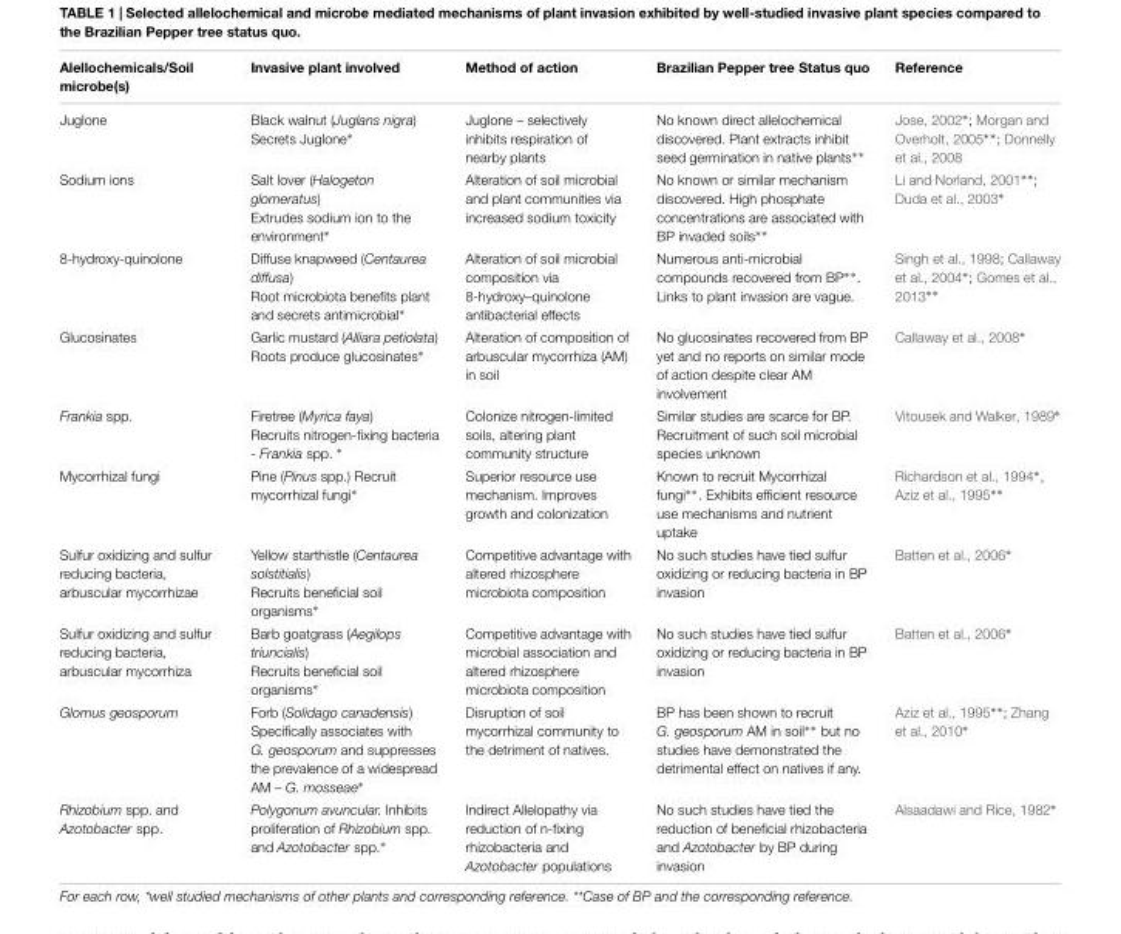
<table><thead><tr><td>Alellochemicals/Soil microbe(s)</td><td>Invasive plant involved</td><td>Method of action</td><td>Brazilian Pepper tree Status quo</td><td>Reference</td></tr></thead><tbody><tr><td>Juglone</td><td>Black walnut (Juglans nigra) Secrets Juglone∗</td><td>Juglone – selectively inhibits respiration of nearby plants</td><td>No known direct allelochemical discovered. Plant extracts inhibit seed germination in native plants∗∗</td><td>Jose, 2002∗; Morgan and Overholt, 2005∗∗; Donnelly et al., 2008</td></tr><tr><td>Sodium ions</td><td>Salt lover (Halogeton glomeratus) Extrudes sodium ion to the environment∗</td><td>Alteration of soil microbial and plant communities via increased sodium toxicity</td><td>No known or similar mechanism discovered. High phosphate concentrations are associated with BP invaded soils∗∗</td><td>Li and Norland, 2001∗∗; Duda et al., 2003∗</td></tr><tr><td>8-hydroxy-quinolone</td><td>Diffuse knapweed (Centaurea diffusa) Root microbiota benefits plant and secrets antimicrobial∗</td><td>Alteration of soil microbial composition via 8-hydroxy–quinolone antibacterial effects</td><td>Numerous anti-microbial compounds recovered from BP∗∗. Links to plant invasion are vague.</td><td>Singh et al., 1998; Callaway et al., 2004∗; Gomes et al., 2013∗∗</td></tr><tr><td>Glucosinates</td><td>Garlic mustard (Alliara petiolata) Roots produce glucosinates∗</td><td>Alteration of composition of arbuscular mycorrhiza (AM) in soil</td><td>No glucosinates recovered from BP yet and no reports on similar mode of action despite clear AM involvement</td><td>Callaway et al., 2008∗</td></tr><tr><td>Frankia spp.</td><td>Firetree (Myrica faya) Recruits nitrogen-fixing bacteria - Frankia spp. ∗</td><td>Colonize nitrogen-limited soils, altering plant community structure</td><td>Similar studies are scarce for BP. Recruitment of such soil microbial species unknown</td><td>Vitousek and Walker, 1989∗</td></tr><tr><td>Mycorrhizal fungi</td><td>Pine (Pinus spp.) Recruit mycorrhizal fungi∗</td><td>Superior resource use mechanism. Improves growth and colonization</td><td>Known to recruit Mycorrhizal fungi∗∗. Exhibits efficient resource use mechanisms and nutrient uptake</td><td>Richardson et al., 1994∗, Aziz et al., 1995∗∗</td></tr><tr><td>Sulfur oxidizing and sulfur reducing bacteria, arbuscular mycorrhizae</td><td>Yellow starthistle (Centaurea solstitialis) Recruits beneficial soil organisms∗</td><td>Competitive advantage with altered rhizosphere microbiota composition</td><td>No such studies have tied sulfur oxidizing or reducing bacteria in BP invasion</td><td>Batten et al., 2006∗</td></tr><tr><td>Sulfur oxidizing and sulfur reducing bacteria, arbuscular mycorrhiza</td><td>Barb goatgrass (Aegilops triuncialis) Recruits beneficial soil organisms∗</td><td>Competitive advantage with microbial association and altered rhizosphere microbiota composition</td><td>No such studies have tied sulfur oxidizing or reducing bacteria in BP invasion</td><td>Batten et al., 2006∗</td></tr><tr><td>Glomus geosporum</td><td>Forb (Solidago canadensis) Specifically associates with G. geosporum and suppresses the prevalence of a widespread AM – G. mosseae∗</td><td>Disruption of soil mycorrhizal community to the detriment of natives.</td><td>BP has been shown to recruit G. geosporum AM in soil∗∗ but no studies have demonstrated the detrimental effect on natives if any.</td><td>Aziz et al., 1995∗∗; Zhang et al., 2010∗</td></tr><tr><td>Rhizobium spp. and Azotobacter spp.</td><td>Polygonum avuncular. Inhibits proliferation of Rhizobium spp. and Azotobacter spp.∗</td><td>Indirect Allelopathy via reduction of n-fixing rhizobacteria and Azotobacter populations</td><td>No such studies have tied the reduction of beneficial rhizobacteria and Azotobacter by BP during invasion</td><td>Alsaadawi and Rice, 1982∗</td></tr></tbody></table>